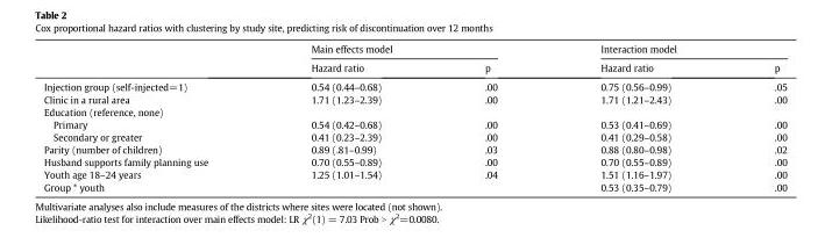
<table><thead><tr><td rowspan="2"></td><td colspan="2">Main effects model</td><td colspan="2">Interaction model</td></tr><tr><td>Hazard ratio</td><td>p</td><td>Hazard ratio</td><td>p</td></tr></thead><tbody><tr><td>Injection group (self-injected=1)</td><td>0.54 (0.44–0.68)</td><td>.00</td><td>0.75 (0.56–0.99)</td><td>.05</td></tr><tr><td>Clinic in a rural area</td><td>1.71 (1.23–2.39)</td><td>.00</td><td>1.71 (1.21–2.43)</td><td>.00</td></tr><tr><td colspan="5">Education (reference, none)</td></tr><tr><td>Primary</td><td>0.54 (0.42–0.68)</td><td>.00</td><td>0.53 (0.41–0.69)</td><td>.00</td></tr><tr><td>Secondary or greater</td><td>0.41 (0.23–2.39)</td><td>.00</td><td>0.41 (0.29–0.58)</td><td>.00</td></tr><tr><td>Parity (number of children)</td><td>0.89 (.81–0.99)</td><td>.03</td><td>0.88 (0.80–0.98)</td><td>.02</td></tr><tr><td>Husband supports family planning use</td><td>0.70 (0.55–0.89)</td><td>.00</td><td>0.70 (0.55–0.89)</td><td>.00</td></tr><tr><td>Youth age 18–24 years</td><td>1.25 (1.01–1.54)</td><td>.04</td><td>1.51 (1.16–1.97)</td><td>.00</td></tr><tr><td>Group * youth</td><td></td><td></td><td>0.53 (0.35–0.79)</td><td>.00</td></tr></tbody></table>